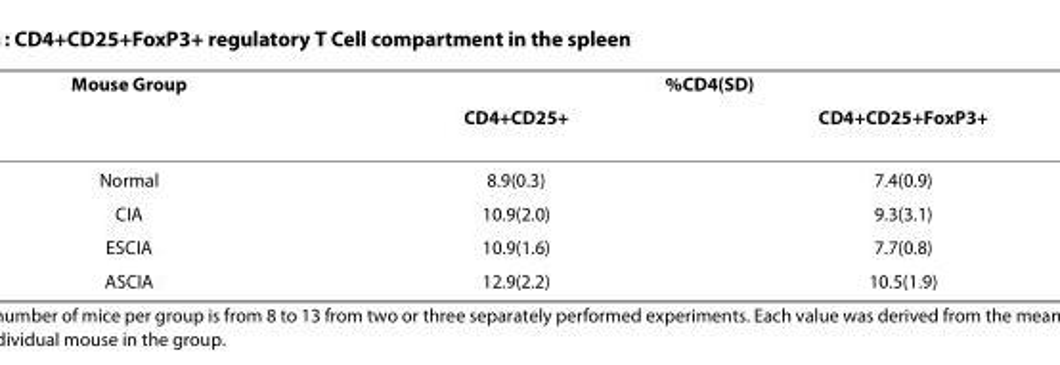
<table><thead><tr><td rowspan="2">Mouse Group</td><td colspan="2">%CD4(SD)</td></tr><tr><td>CD4+CD25+</td><td>CD4+CD25+FoxP3+</td></tr></thead><tbody><tr><td>Normal</td><td>8.9(0.3)</td><td>7.4(0.9)</td></tr><tr><td>CIA</td><td>10.9(2.0)</td><td>9.3(3.1)</td></tr><tr><td>ESCIA</td><td>10.9(1.6)</td><td>7.7(0.8)</td></tr><tr><td>ASCIA</td><td>12.9(2.2)</td><td>10.5(1.9)</td></tr></tbody></table>